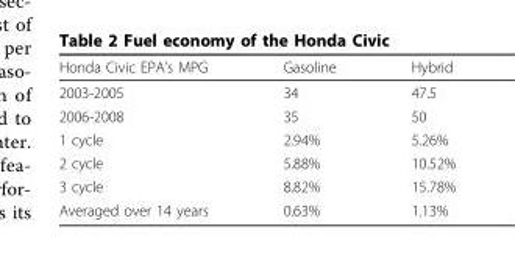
<table><thead><tr><td>Honda Civic EPA’s MPG</td><td>Gasoline</td><td>Hybrid</td></tr></thead><tbody><tr><td>2003-2005</td><td>34</td><td>47.5</td></tr><tr><td>2006-2008</td><td>35</td><td>50</td></tr><tr><td>1 cycle</td><td>2.94%</td><td>5.26%</td></tr><tr><td>2 cycle</td><td>5.88%</td><td>10.52%</td></tr><tr><td>3 cycle</td><td>8.82%</td><td>15.78%</td></tr><tr><td>Averaged over 14 years</td><td>0.63%</td><td>1.13%</td></tr></tbody></table>